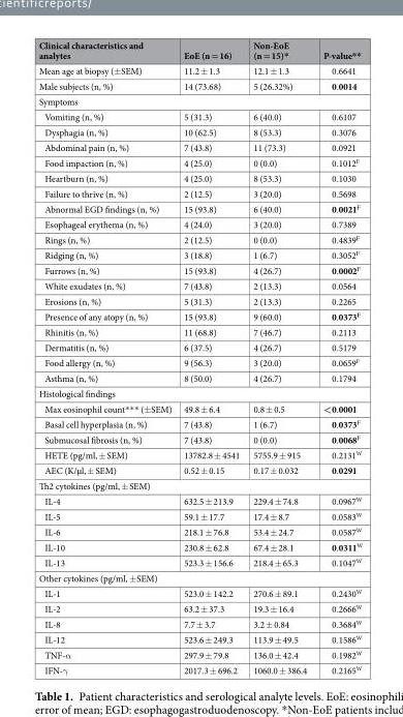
<table><thead><tr><td>Clinical characteristics and analytes</td><td>EoE (n = 16)</td><td>Non-EoE (n = 15)*</td><td>P-value**</td></tr></thead><tbody><tr><td>Mean age at biopsy (±SEM)</td><td>11.2 ± 1.3</td><td>12.1 ± 1.3</td><td>0.6641</td></tr><tr><td>Male subjects (n, %)</td><td>14 (73.68)</td><td>5 (26.32%)</td><td>0.0014</td></tr><tr><td colspan="4">Symptoms</td></tr><tr><td>Vomiting (n, %)</td><td>5 (31.3)</td><td>6 (40.0)</td><td>0.6107</td></tr><tr><td>Dysphagia (n, %)</td><td>10 (62.5)</td><td>8 (53.3)</td><td>0.3076</td></tr><tr><td>Abdominal pain (n, %)</td><td>7 (43.8)</td><td>11 (73.3)</td><td>0.0921</td></tr><tr><td>Food impaction (n, %)</td><td>4 (25.0)</td><td>0 (0.0)</td><td>0.1012<sup>F</sup></td></tr><tr><td>Heartburn (n, %)</td><td>4 (25.0)</td><td>8 (53.3)</td><td>0.1030</td></tr><tr><td>Failure to thrive (n, %)</td><td>2 (12.5)</td><td>3 (20.0)</td><td>0.5698</td></tr><tr><td>Abnormal EGD findings (n, %)</td><td>15 (93.8)</td><td>6 (40.0)</td><td>0.0021<sup>F</sup></td></tr><tr><td>Esophageal erythema (n, %)</td><td>4 (24.0)</td><td>3 (20.0)</td><td>0.7389</td></tr><tr><td>Rings (n, %)</td><td>2 (12.5)</td><td>0 (0.0)</td><td>0.4839<sup>F</sup></td></tr><tr><td>Ridging (n, %)</td><td>3 (18.8)</td><td>1 (6.7)</td><td>0.3052<sup>F</sup></td></tr><tr><td>Furrows (n, %)</td><td>15 (93.8)</td><td>4 (26.7)</td><td>0.0002<sup>F</sup></td></tr><tr><td>White exudates (n, %)</td><td>7 (43.8)</td><td>2 (13.3)</td><td>0.0564</td></tr><tr><td>Erosions (n, %)</td><td>5 (31.3)</td><td>2 (13.3)</td><td>0.2265</td></tr><tr><td>Presence of any atopy (n, %)</td><td>15 (93.8)</td><td>9 (60.0)</td><td>0.0373<sup>F</sup></td></tr><tr><td>Rhinitis (n, %)</td><td>11 (68.8)</td><td>7 (46.7)</td><td>0.2113</td></tr><tr><td>Dermatitis (n, %)</td><td>6 (37.5)</td><td>4 (26.7)</td><td>0.5179</td></tr><tr><td>Food allergy (n, %)</td><td>9 (56.3)</td><td>3 (20.0)</td><td>0.0659<sup>F</sup></td></tr><tr><td>Asthma (n, %)</td><td>8 (50.0)</td><td>4 (26.7)</td><td>0.1794</td></tr><tr><td colspan="4">Histological findings</td></tr><tr><td>Max eosinophil count*** (±SEM)</td><td>49.8 ± 6.4</td><td>0.8 ± 0.5</td><td>&lt;0.0001</td></tr><tr><td>Basal cell hyperplasia (n, %)</td><td>7 (43.8)</td><td>1 (6.7)</td><td>0.0373<sup>F</sup></td></tr><tr><td>Submucosal fibrosis (n, %)</td><td>7 (43.8)</td><td>0 (0.0)</td><td>0.0068<sup>F</sup></td></tr><tr><td>HETE (pg/ml, ± SEM)</td><td>13782.8 ± 4541</td><td>5755.9 ± 915</td><td>0.2131<sup>W</sup></td></tr><tr><td>AEC (K/µl, ± SEM)</td><td>0.52 ± 0.15</td><td>0.17 ± 0.032</td><td>0.0291</td></tr><tr><td colspan="4">Th2 cytokines (pg/ml, ± SEM)</td></tr><tr><td>IL-4</td><td>632.5 ± 213.9</td><td>229.4 ± 74.8</td><td>0.0967<sup>W</sup></td></tr><tr><td>IL-5</td><td>59.1 ± 17.7</td><td>17.4 ± 8.7</td><td>0.0583<sup>W</sup></td></tr><tr><td>IL-6</td><td>218.1 ± 76.8</td><td>53.4 ± 24.7</td><td>0.0587<sup>W</sup></td></tr><tr><td>IL-10</td><td>230.8 ± 62.8</td><td>67.4 ± 28.1</td><td>0.0311<sup>W</sup></td></tr><tr><td>IL-13</td><td>523.3 ± 156.6</td><td>218.4 ± 65.3</td><td>0.1047<sup>W</sup></td></tr><tr><td colspan="4">Other cytokines (pg/ml, ±SEM)</td></tr><tr><td>IL-1</td><td>523.0 ± 142.2</td><td>270.6 ± 89.1</td><td>0.2430<sup>W</sup></td></tr><tr><td>IL-2</td><td>63.2 ± 37.3</td><td>19.3 ± 16.4</td><td>0.2666<sup>W</sup></td></tr><tr><td>IL-8</td><td>7.7 ± 3.7</td><td>3.2 ± 0.84</td><td>0.3684<sup>W</sup></td></tr><tr><td>IL-12</td><td>523.6 ± 249.3</td><td>113.9 ± 49.5</td><td>0.1586<sup>W</sup></td></tr><tr><td>TNF-α</td><td>297.9 ± 79.8</td><td>136.0 ± 42.4</td><td>0.1982<sup>W</sup></td></tr><tr><td>IFN-γ</td><td>2017.3 ± 696.2</td><td>1060.0 ± 386.4</td><td>0.2165<sup>W</sup></td></tr></tbody></table>